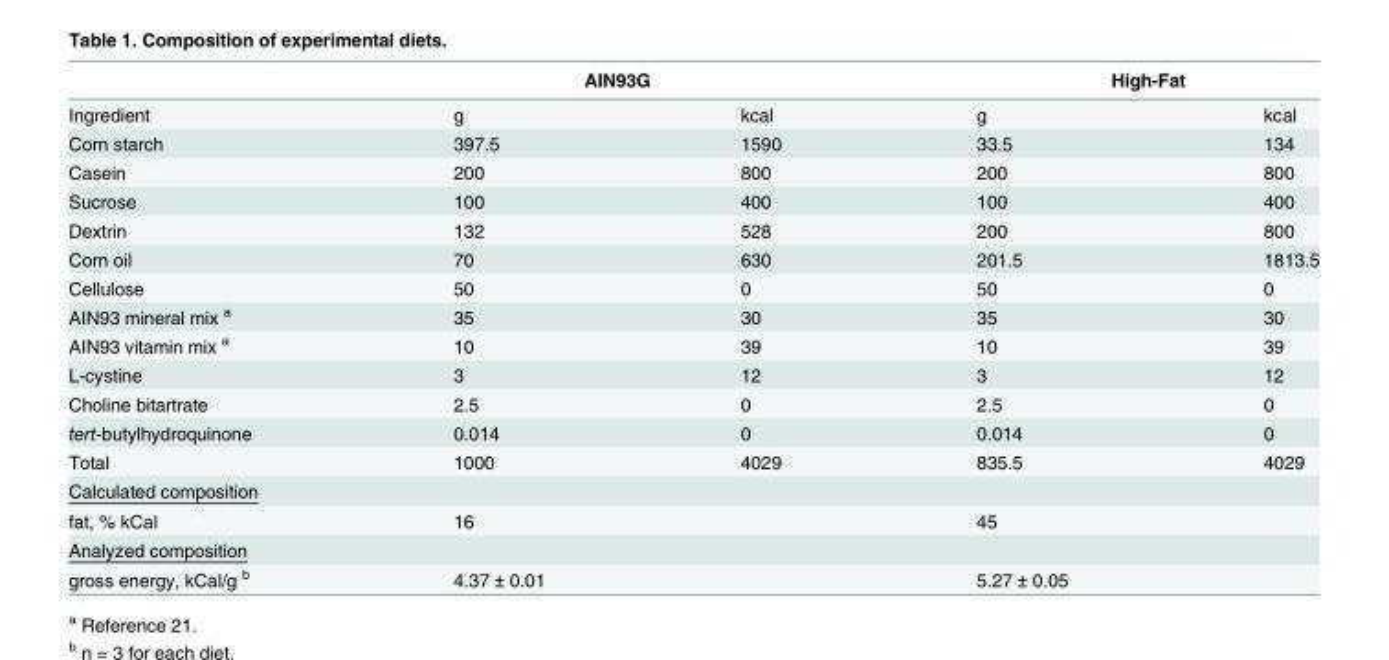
<table><thead><tr><td rowspan="2">Ingredient</td><td colspan="2">AIN93G</td><td colspan="2">High-Fat</td></tr><tr><td>g</td><td>kcal</td><td>g</td><td>kcal</td></tr></thead><tbody><tr><td>Corn starch</td><td>397.5</td><td>1590</td><td>33.5</td><td>134</td></tr><tr><td>Casein</td><td>200</td><td>800</td><td>200</td><td>800</td></tr><tr><td>Sucrose</td><td>100</td><td>400</td><td>100</td><td>400</td></tr><tr><td>Dextrin</td><td>132</td><td>528</td><td>200</td><td>800</td></tr><tr><td>Corn oil</td><td>70</td><td>630</td><td>201.5</td><td>1813.5</td></tr><tr><td>Cellulose</td><td>50</td><td>0</td><td>50</td><td>0</td></tr><tr><td>AIN93 mineral mix <sup>a</sup></td><td>35</td><td>30</td><td>35</td><td>30</td></tr><tr><td>AIN93 vitamin mix <sup>a</sup></td><td>10</td><td>39</td><td>10</td><td>39</td></tr><tr><td>L-cystine</td><td>3</td><td>12</td><td>3</td><td>12</td></tr><tr><td>Choline bitartrate</td><td>2.5</td><td>0</td><td>2.5</td><td>0</td></tr><tr><td>tert-butylhydroquinone</td><td>0.014</td><td>0</td><td>0.014</td><td>0</td></tr><tr><td>Total</td><td>1000</td><td>4029</td><td>835.5</td><td>4029</td></tr><tr><td colspan="5">Calculated composition</td></tr><tr><td>fat, % kCal</td><td>16</td><td></td><td>45</td><td></td></tr><tr><td colspan="5">Analyzed composition</td></tr><tr><td>gross energy, kCal/g <sup>b</sup></td><td>4.37 ± 0.01</td><td></td><td>5.27 ± 0.05</td><td></td></tr></tbody></table>